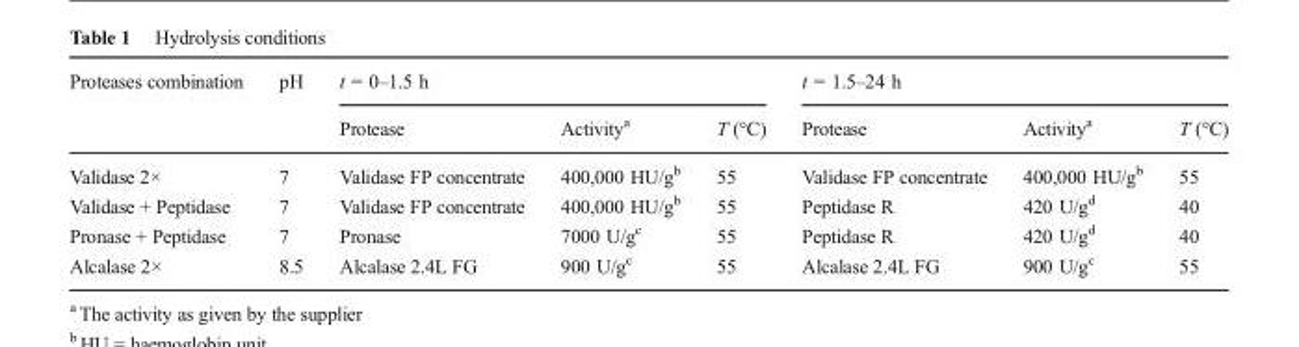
<table><thead><tr><td rowspan="2">Proteases combination</td><td rowspan="2">pH</td><td colspan="3">t = 0–1.5 h</td><td colspan="3">t = 1.5–24 h</td></tr><tr><td>Protease</td><td>Activity<sup>a</sup></td><td>T (°C)</td><td>Protease</td><td>Activity<sup>a</sup></td><td>T (°C)</td></tr></thead><tbody><tr><td>Validase 2×</td><td>7</td><td>Validase FP concentrate</td><td>400,000 HU/g<sup>b</sup></td><td>55</td><td>Validase FP concentrate</td><td>400,000 HU/g<sup>b</sup></td><td>55</td></tr><tr><td>Validase + Peptidase</td><td>7</td><td>Validase FP concentrate</td><td>400,000 HU/g<sup>b</sup></td><td>55</td><td>Peptidase R</td><td>420 U/g<sup>d</sup></td><td>40</td></tr><tr><td>Pronase + Peptidase</td><td>7</td><td>Pronase</td><td>7000 U/g<sup>c</sup></td><td>55</td><td>Peptidase R</td><td>420 U/g<sup>d</sup></td><td>40</td></tr><tr><td>Alcalase 2×</td><td>8.5</td><td>Alcalase 2.4L FG</td><td>900 U/g<sup>c</sup></td><td>55</td><td>Alcalase 2.4L FG</td><td>900 U/g<sup>c</sup></td><td>55</td></tr></tbody></table>